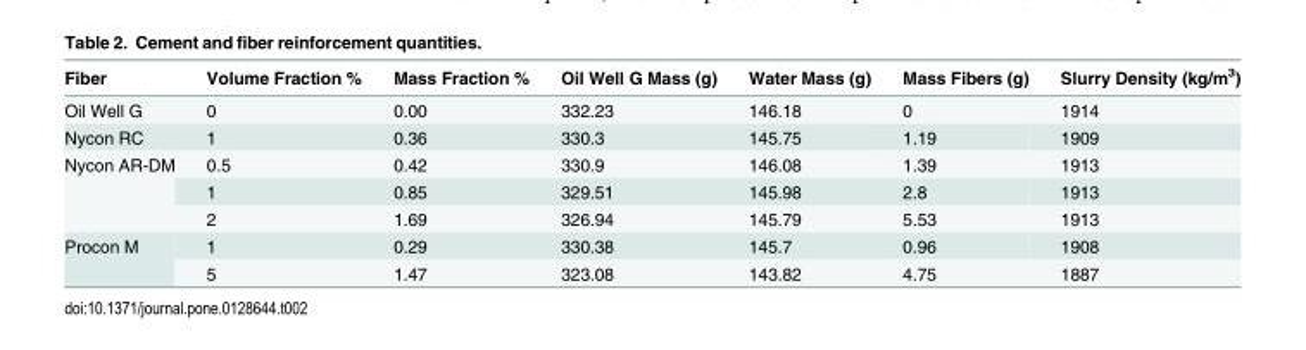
<table><thead><tr><td>Fiber</td><td>Volume Fraction %</td><td>Mass Fraction %</td><td>Oil Well G Mass (g)</td><td>Water Mass (g)</td><td>Mass Fibers (g)</td><td>Slurry Density (kg/m<sup>3</sup>)</td></tr></thead><tbody><tr><td>Oil Well G</td><td>0</td><td>0.00</td><td>332.23</td><td>146.18</td><td>0</td><td>1914</td></tr><tr><td>Nycon RC</td><td>1</td><td>0.36</td><td>330.3</td><td>145.75</td><td>1.19</td><td>1909</td></tr><tr><td rowspan="3">Nycon AR-DM</td><td>0.5</td><td>0.42</td><td>330.9</td><td>146.08</td><td>1.39</td><td>1913</td></tr><tr><td>1</td><td>0.85</td><td>329.51</td><td>145.98</td><td>2.8</td><td>1913</td></tr><tr><td>2</td><td>1.69</td><td>326.94</td><td>145.79</td><td>5.53</td><td>1913</td></tr><tr><td rowspan="2">Procon M</td><td>1</td><td>0.29</td><td>330.38</td><td>145.7</td><td>0.96</td><td>1908</td></tr><tr><td>5</td><td>1.47</td><td>323.08</td><td>143.82</td><td>4.75</td><td>1887</td></tr></tbody></table>